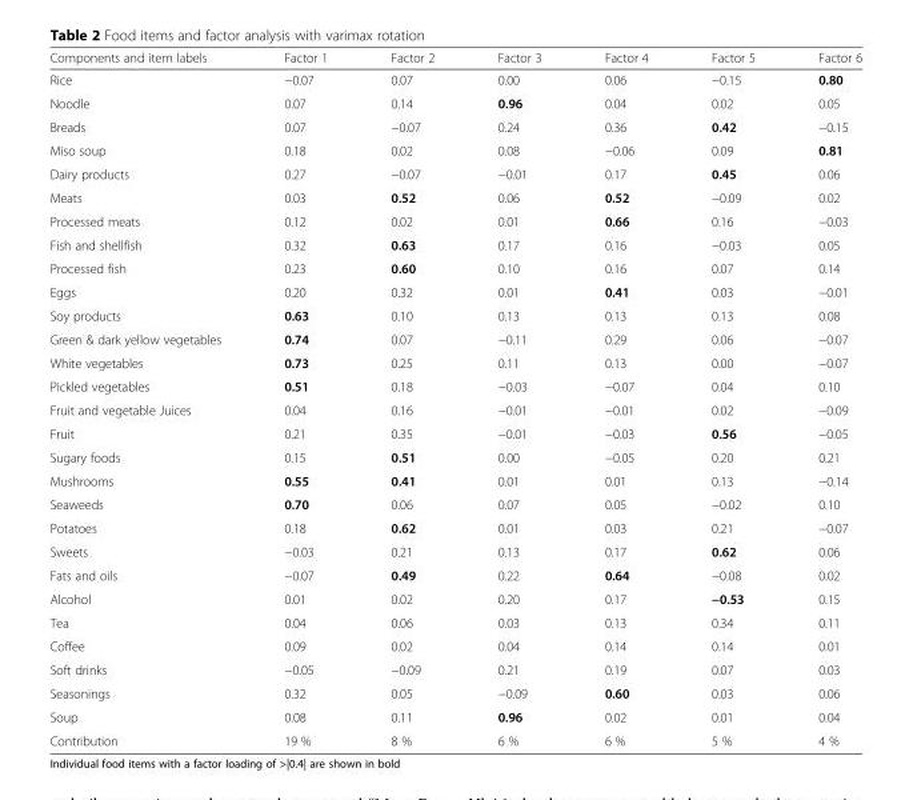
<table><thead><tr><td>Components and item labels</td><td>Factor 1</td><td>Factor 2</td><td>Factor 3</td><td>Factor 4</td><td>Factor 5</td><td>Factor 6</td></tr></thead><tbody><tr><td>Rice</td><td>−0.07</td><td>0.07</td><td>0.00</td><td>0.06</td><td>−0.15</td><td>0.80</td></tr><tr><td>Noodle</td><td>0.07</td><td>0.14</td><td>0.96</td><td>0.04</td><td>0.02</td><td>0.05</td></tr><tr><td>Breads</td><td>0.07</td><td>−0.07</td><td>0.24</td><td>0.36</td><td>0.42</td><td>−0.15</td></tr><tr><td>Miso soup</td><td>0.18</td><td>0.02</td><td>0.08</td><td>−0.06</td><td>0.09</td><td>0.81</td></tr><tr><td>Dairy products</td><td>0.27</td><td>−0.07</td><td>−0.01</td><td>0.17</td><td>0.45</td><td>0.06</td></tr><tr><td>Meats</td><td>0.03</td><td>0.52</td><td>0.06</td><td>0.52</td><td>−0.09</td><td>0.02</td></tr><tr><td>Processed meats</td><td>0.12</td><td>0.02</td><td>0.01</td><td>0.66</td><td>0.16</td><td>−0.03</td></tr><tr><td>Fish and shellfish</td><td>0.32</td><td>0.63</td><td>0.17</td><td>0.16</td><td>−0.03</td><td>0.05</td></tr><tr><td>Processed fish</td><td>0.23</td><td>0.60</td><td>0.10</td><td>0.16</td><td>0.07</td><td>0.14</td></tr><tr><td>Eggs</td><td>0.20</td><td>0.32</td><td>0.01</td><td>0.41</td><td>0.03</td><td>−0.01</td></tr><tr><td>Soy products</td><td>0.63</td><td>0.10</td><td>0.13</td><td>0.13</td><td>0.13</td><td>0.08</td></tr><tr><td>Green &amp; dark yellow vegetables</td><td>0.74</td><td>0.07</td><td>−0.11</td><td>0.29</td><td>0.06</td><td>−0.07</td></tr><tr><td>White vegetables</td><td>0.73</td><td>0.25</td><td>0.11</td><td>0.13</td><td>0.00</td><td>−0.07</td></tr><tr><td>Pickled vegetables</td><td>0.51</td><td>0.18</td><td>−0.03</td><td>−0.07</td><td>0.04</td><td>0.10</td></tr><tr><td>Fruit and vegetable Juices</td><td>0.04</td><td>0.16</td><td>−0.01</td><td>−0.01</td><td>0.02</td><td>−0.09</td></tr><tr><td>Fruit</td><td>0.21</td><td>0.35</td><td>−0.01</td><td>−0.03</td><td>0.56</td><td>−0.05</td></tr><tr><td>Sugary foods</td><td>0.15</td><td>0.51</td><td>0.00</td><td>−0.05</td><td>0.20</td><td>0.21</td></tr><tr><td>Mushrooms</td><td>0.55</td><td>0.41</td><td>0.01</td><td>0.01</td><td>0.13</td><td>−0.14</td></tr><tr><td>Seaweeds</td><td>0.70</td><td>0.06</td><td>0.07</td><td>0.05</td><td>−0.02</td><td>0.10</td></tr><tr><td>Potatoes</td><td>0.18</td><td>0.62</td><td>0.01</td><td>0.03</td><td>0.21</td><td>−0.07</td></tr><tr><td>Sweets</td><td>−0.03</td><td>0.21</td><td>0.13</td><td>0.17</td><td>0.62</td><td>0.06</td></tr><tr><td>Fats and oils</td><td>−0.07</td><td>0.49</td><td>0.22</td><td>0.64</td><td>−0.08</td><td>0.02</td></tr><tr><td>Alcohol</td><td>0.01</td><td>0.02</td><td>0.20</td><td>0.17</td><td>−0.53</td><td>0.15</td></tr><tr><td>Tea</td><td>0.04</td><td>0.06</td><td>0.03</td><td>0.13</td><td>0.34</td><td>0.11</td></tr><tr><td>Coffee</td><td>0.09</td><td>0.02</td><td>0.04</td><td>0.14</td><td>0.14</td><td>0.01</td></tr><tr><td>Soft drinks</td><td>−0.05</td><td>−0.09</td><td>0.21</td><td>0.19</td><td>0.07</td><td>0.03</td></tr><tr><td>Seasonings</td><td>0.32</td><td>0.05</td><td>−0.09</td><td>0.60</td><td>0.03</td><td>0.06</td></tr><tr><td>Soup</td><td>0.08</td><td>0.11</td><td>0.96</td><td>0.02</td><td>0.01</td><td>0.04</td></tr><tr><td>Contribution</td><td>19 %</td><td>8 %</td><td>6 %</td><td>6 %</td><td>5 %</td><td>4 %</td></tr></tbody></table>